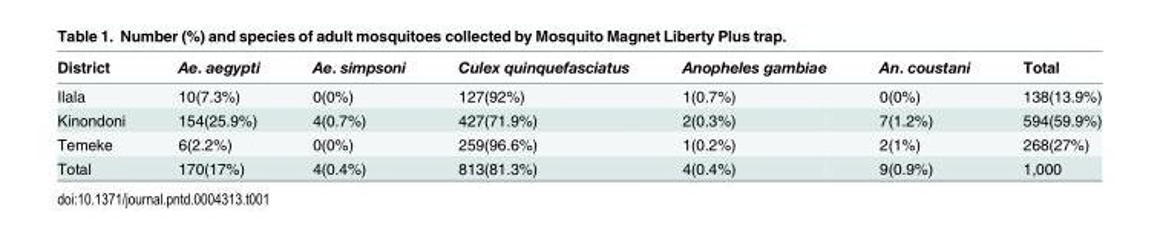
<table><thead><tr><td>District</td><td>Ae. aegypti</td><td>Ae. simpsoni</td><td>Culex quinquefasciatus</td><td>Anopheles gambiae</td><td>An. coustani</td><td>Total</td></tr></thead><tbody><tr><td>Ilala</td><td>10(7.3%)</td><td>0(0%)</td><td>127(92%)</td><td>1(0.7%)</td><td>0(0%)</td><td>138(13.9%)</td></tr><tr><td>Kinondoni</td><td>154(25.9%)</td><td>4(0.7%)</td><td>427(71.9%)</td><td>2(0.3%)</td><td>7(1.2%)</td><td>594(59.9%)</td></tr><tr><td>Temeke</td><td>6(2.2%)</td><td>0(0%)</td><td>259(96.6%)</td><td>1(0.2%)</td><td>2(1%)</td><td>268(27%)</td></tr><tr><td>Total</td><td>170(17%)</td><td>4(0.4%)</td><td>813(81.3%)</td><td>4(0.4%)</td><td>9(0.9%)</td><td>1,000</td></tr></tbody></table>